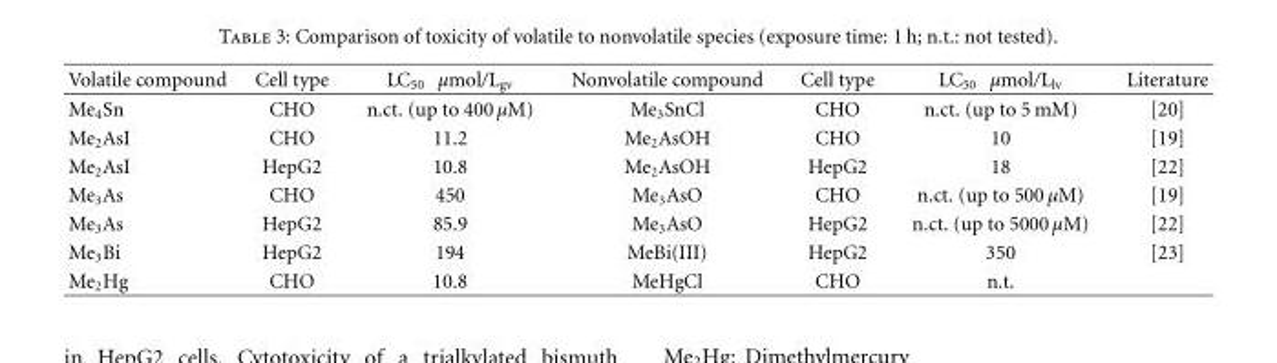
<table><thead><tr><td>Volatile compound</td><td>Cell type</td><td>LC<sub>50</sub> µmol/L<sub>gv</sub></td><td>Nonvolatile compound</td><td>Cell type</td><td>LC<sub>50</sub> µmol/L<sub>lv</sub></td><td>Literature</td></tr></thead><tbody><tr><td>Me<sub>4</sub>Sn</td><td>CHO</td><td>n.ct. (up to 400 µM)</td><td>Me<sub>3</sub>SnCl</td><td>CHO</td><td>n.ct. (up to 5 mM)</td><td>[20]</td></tr><tr><td>Me<sub>2</sub>AsI</td><td>CHO</td><td>11.2</td><td>Me<sub>2</sub>AsOH</td><td>CHO</td><td>10</td><td>[19]</td></tr><tr><td>Me<sub>2</sub>AsI</td><td>HepG2</td><td>10.8</td><td>Me<sub>2</sub>AsOH</td><td>HepG2</td><td>18</td><td>[22]</td></tr><tr><td>Me<sub>3</sub>As</td><td>CHO</td><td>450</td><td>Me<sub>3</sub>AsO</td><td>CHO</td><td>n.ct. (up to 500 µM)</td><td>[19]</td></tr><tr><td>Me<sub>3</sub>As</td><td>HepG2</td><td>85.9</td><td>Me<sub>3</sub>AsO</td><td>HepG2</td><td>n.ct. (up to 5000 µM)</td><td>[22]</td></tr><tr><td>Me<sub>3</sub>Bi</td><td>HepG2</td><td>194</td><td>MeBi(III)</td><td>HepG2</td><td>350</td><td>[23]</td></tr><tr><td>Me<sub>2</sub>Hg</td><td>CHO</td><td>10.8</td><td>MeHgCl</td><td>CHO</td><td>n.t.</td><td></td></tr></tbody></table>